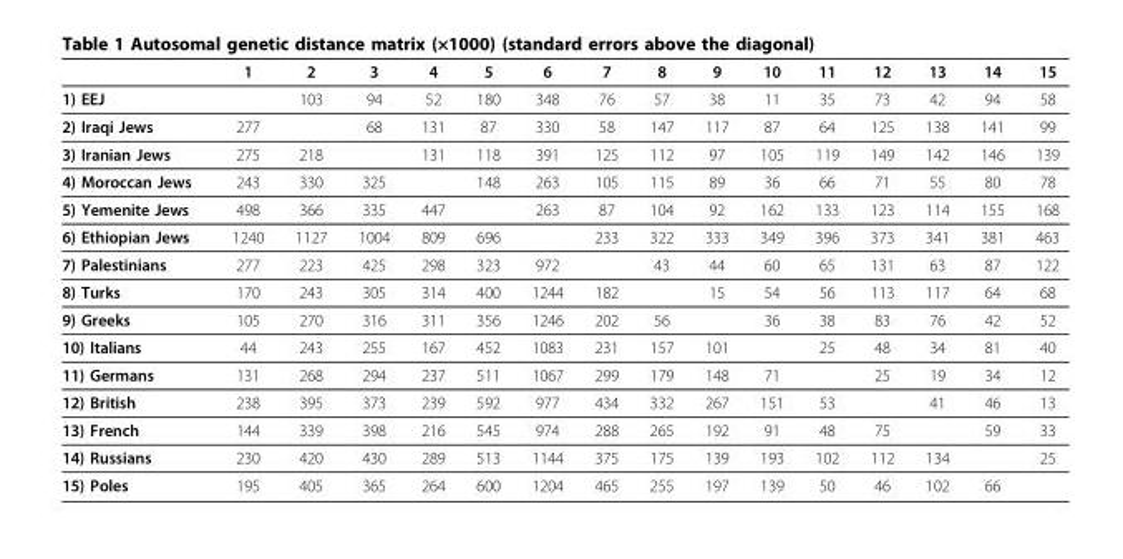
<table><thead><tr><td></td><td>1</td><td>2</td><td>3</td><td>4</td><td>5</td><td>6</td><td>7</td><td>8</td><td>9</td><td>10</td><td>11</td><td>12</td><td>13</td><td>14</td><td>15</td></tr></thead><tbody><tr><td>1) EEJ</td><td></td><td>103</td><td>94</td><td>52</td><td>180</td><td>348</td><td>76</td><td>57</td><td>38</td><td>11</td><td>35</td><td>73</td><td>42</td><td>94</td><td>58</td></tr><tr><td>2) Iraqi Jews</td><td>277</td><td></td><td>68</td><td>131</td><td>87</td><td>330</td><td>58</td><td>147</td><td>117</td><td>87</td><td>64</td><td>125</td><td>138</td><td>141</td><td>99</td></tr><tr><td>3) Iranian Jews</td><td>275</td><td>218</td><td></td><td>131</td><td>118</td><td>391</td><td>125</td><td>112</td><td>97</td><td>105</td><td>119</td><td>149</td><td>142</td><td>146</td><td>139</td></tr><tr><td>4) Moroccan Jews</td><td>243</td><td>330</td><td>325</td><td></td><td>148</td><td>263</td><td>105</td><td>115</td><td>89</td><td>36</td><td>66</td><td>71</td><td>55</td><td>80</td><td>78</td></tr><tr><td>5) Yemenite Jews</td><td>498</td><td>366</td><td>335</td><td>447</td><td></td><td>263</td><td>87</td><td>104</td><td>92</td><td>162</td><td>133</td><td>123</td><td>114</td><td>155</td><td>168</td></tr><tr><td>6) Ethiopian Jews</td><td>1240</td><td>1127</td><td>1004</td><td>809</td><td>696</td><td></td><td>233</td><td>322</td><td>333</td><td>349</td><td>396</td><td>373</td><td>341</td><td>381</td><td>463</td></tr><tr><td>7) Palestinians</td><td>277</td><td>223</td><td>425</td><td>298</td><td>323</td><td>972</td><td></td><td>43</td><td>44</td><td>60</td><td>65</td><td>131</td><td>63</td><td>87</td><td>122</td></tr><tr><td>8) Turks</td><td>170</td><td>243</td><td>305</td><td>314</td><td>400</td><td>1244</td><td>182</td><td></td><td>15</td><td>54</td><td>56</td><td>113</td><td>117</td><td>64</td><td>68</td></tr><tr><td>9) Greeks</td><td>105</td><td>270</td><td>316</td><td>311</td><td>356</td><td>1246</td><td>202</td><td>56</td><td></td><td>36</td><td>38</td><td>83</td><td>76</td><td>42</td><td>52</td></tr><tr><td>10) Italians</td><td>44</td><td>243</td><td>255</td><td>167</td><td>452</td><td>1083</td><td>231</td><td>157</td><td>101</td><td></td><td>25</td><td>48</td><td>34</td><td>81</td><td>40</td></tr><tr><td>11) Germans</td><td>131</td><td>268</td><td>294</td><td>237</td><td>511</td><td>1067</td><td>299</td><td>179</td><td>148</td><td>71</td><td></td><td>25</td><td>19</td><td>34</td><td>12</td></tr><tr><td>12) British</td><td>238</td><td>395</td><td>373</td><td>239</td><td>592</td><td>977</td><td>434</td><td>332</td><td>267</td><td>151</td><td>53</td><td></td><td>41</td><td>46</td><td>13</td></tr><tr><td>13) French</td><td>144</td><td>339</td><td>398</td><td>216</td><td>545</td><td>974</td><td>288</td><td>265</td><td>192</td><td>91</td><td>48</td><td>75</td><td></td><td>59</td><td>33</td></tr><tr><td>14) Russians</td><td>230</td><td>420</td><td>430</td><td>289</td><td>513</td><td>1144</td><td>375</td><td>175</td><td>139</td><td>193</td><td>102</td><td>112</td><td>134</td><td></td><td>25</td></tr><tr><td>15) Poles</td><td>195</td><td>405</td><td>365</td><td>264</td><td>600</td><td>1204</td><td>465</td><td>255</td><td>197</td><td>139</td><td>50</td><td>46</td><td>102</td><td>66</td><td></td></tr></tbody></table>